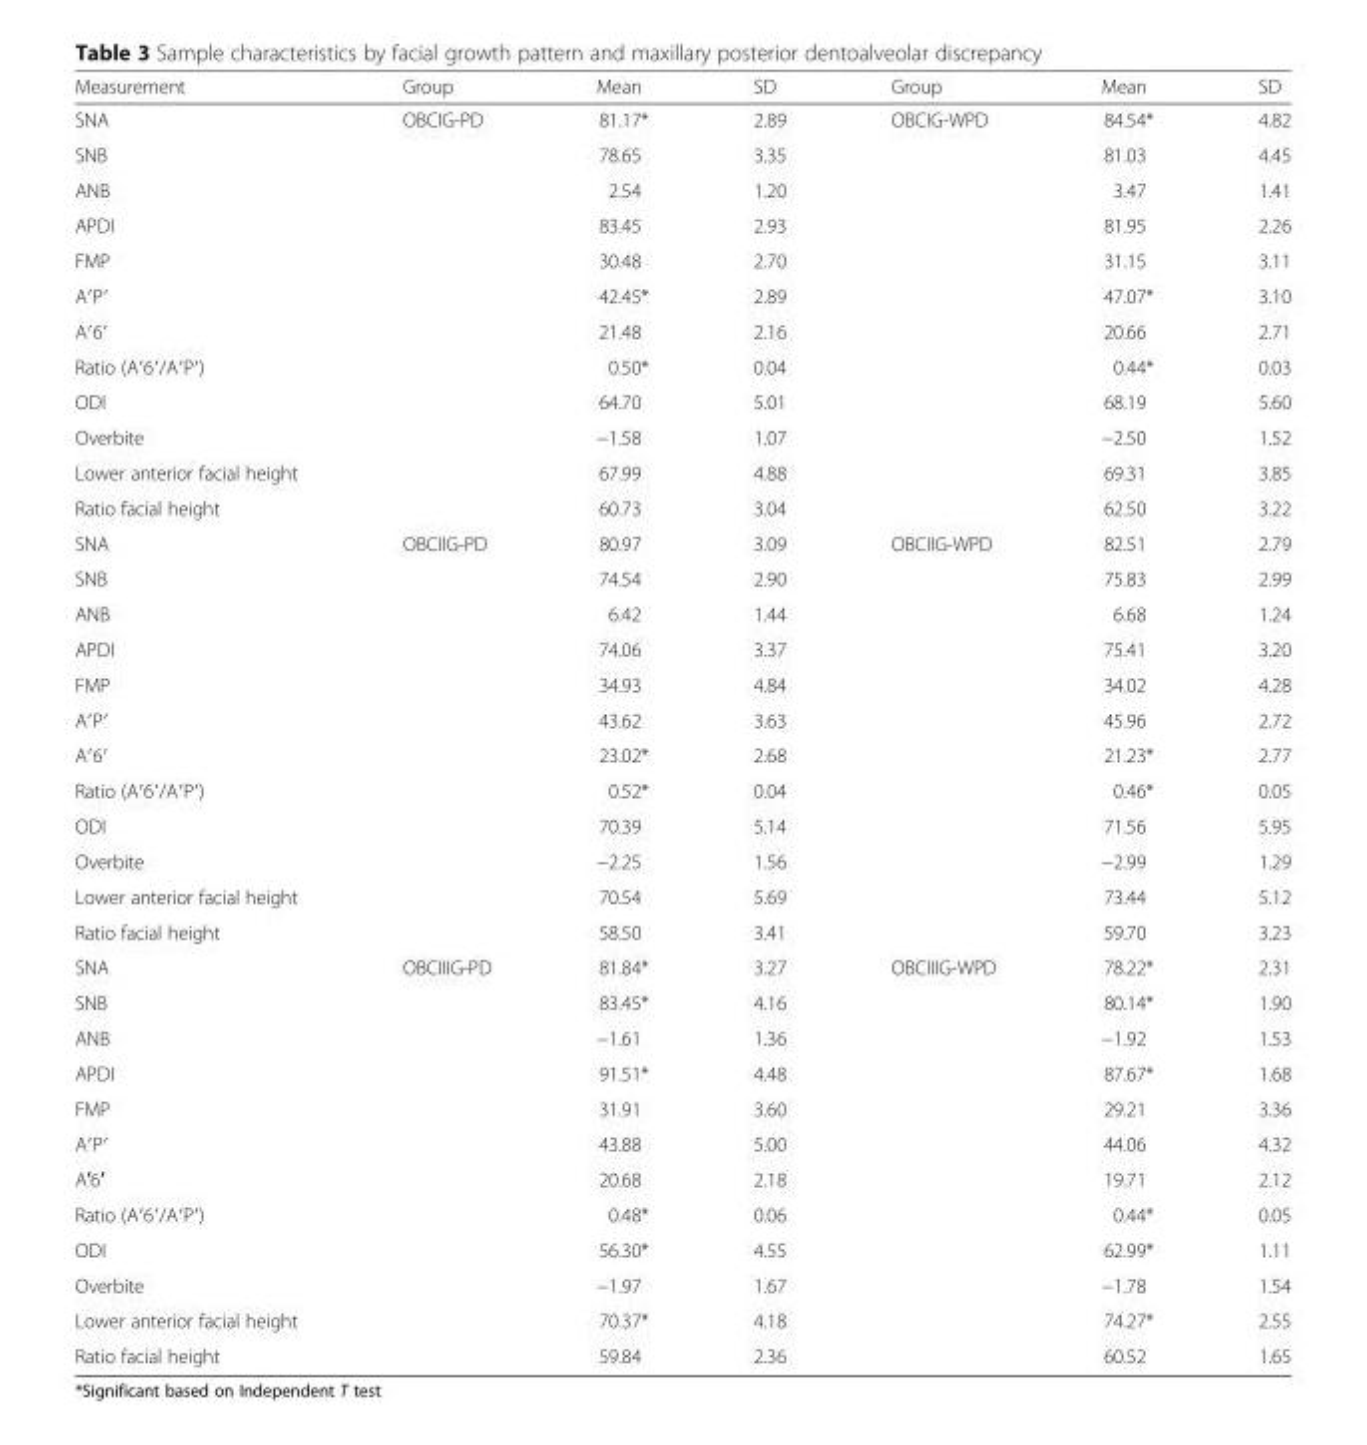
<table><thead><tr><td>Measurement</td><td>Group</td><td>Mean</td><td>SD</td><td>Group</td><td>Mean</td><td>SD</td></tr></thead><tbody><tr><td>SNA</td><td rowspan="12">OBCIG-PD</td><td>81.17*</td><td>2.89</td><td rowspan="12">OBCIG-WPD</td><td>84.54*</td><td>4.82</td></tr><tr><td>SNB</td><td>78.65</td><td>3.35</td><td>81.03</td><td>4.45</td></tr><tr><td>ANB</td><td>2.54</td><td>1.20</td><td>3.47</td><td>1.41</td></tr><tr><td>APDI</td><td>83.45</td><td>2.93</td><td>81.95</td><td>2.26</td></tr><tr><td>FMP</td><td>30.48</td><td>2.70</td><td>31.15</td><td>3.11</td></tr><tr><td>A′P′</td><td>42.45*</td><td>2.89</td><td>47.07*</td><td>3.10</td></tr><tr><td>A′6′</td><td>21.48</td><td>2.16</td><td>20.66</td><td>2.71</td></tr><tr><td>Ratio (A′6′/A′P′)</td><td>0.50*</td><td>0.04</td><td>0.44*</td><td>0.03</td></tr><tr><td>ODI</td><td>64.70</td><td>5.01</td><td>68.19</td><td>5.60</td></tr><tr><td>Overbite</td><td>−1.58</td><td>1.07</td><td>−2.50</td><td>1.52</td></tr><tr><td>Lower anterior facial height</td><td>67.99</td><td>4.88</td><td>69.31</td><td>3.85</td></tr><tr><td>Ratio facial height</td><td>60.73</td><td>3.04</td><td>62.50</td><td>3.22</td></tr><tr><td>SNA</td><td rowspan="12">OBCIIG-PD</td><td>80.97</td><td>3.09</td><td rowspan="12">OBCIIG-WPD</td><td>82.51</td><td>2.79</td></tr><tr><td>SNB</td><td>74.54</td><td>2.90</td><td>75.83</td><td>2.99</td></tr><tr><td>ANB</td><td>6.42</td><td>1.44</td><td>6.68</td><td>1.24</td></tr><tr><td>APDI</td><td>74.06</td><td>3.37</td><td>75.41</td><td>3.20</td></tr><tr><td>FMP</td><td>34.93</td><td>4.84</td><td>34.02</td><td>4.28</td></tr><tr><td>A′P′</td><td>43.62</td><td>3.63</td><td>45.96</td><td>2.72</td></tr><tr><td>A′6′</td><td>23.02*</td><td>2.68</td><td>21.23*</td><td>2.77</td></tr><tr><td>Ratio (A′6′/A′P′)</td><td>0.52*</td><td>0.04</td><td>0.46*</td><td>0.05</td></tr><tr><td>ODI</td><td>70.39</td><td>5.14</td><td>71.56</td><td>5.95</td></tr><tr><td>Overbite</td><td>−2.25</td><td>1.56</td><td>−2.99</td><td>1.29</td></tr><tr><td>Lower anterior facial height</td><td>70.54</td><td>5.69</td><td>73.44</td><td>5.12</td></tr><tr><td>Ratio facial height</td><td>58.50</td><td>3.41</td><td>59.70</td><td>3.23</td></tr><tr><td>SNA</td><td rowspan="12">OBCIIIG-PD</td><td>81.84*</td><td>3.27</td><td rowspan="12">OBCIIIG-WPD</td><td>78.22*</td><td>2.31</td></tr><tr><td>SNB</td><td>83.45*</td><td>4.16</td><td>80.14*</td><td>1.90</td></tr><tr><td>ANB</td><td>−1.61</td><td>1.36</td><td>−1.92</td><td>1.53</td></tr><tr><td>APDI</td><td>91.51*</td><td>4.48</td><td>87.67*</td><td>1.68</td></tr><tr><td>FMP</td><td>31.91</td><td>3.60</td><td>29.21</td><td>3.36</td></tr><tr><td>A′P′</td><td>43.88</td><td>5.00</td><td>44.06</td><td>4.32</td></tr><tr><td>A′6′</td><td>20.68</td><td>2.18</td><td>19.71</td><td>2.12</td></tr><tr><td>Ratio (A′6′/A′P′)</td><td>0.48*</td><td>0.06</td><td>0.44*</td><td>0.05</td></tr><tr><td>ODI</td><td>56.30*</td><td>4.55</td><td>62.99*</td><td>1.11</td></tr><tr><td>Overbite</td><td>−1.97</td><td>1.67</td><td>−1.78</td><td>1.54</td></tr><tr><td>Lower anterior facial height</td><td>70.37*</td><td>4.18</td><td>74.27*</td><td>2.55</td></tr><tr><td>Ratio facial height</td><td>59.84</td><td>2.36</td><td>60.52</td><td>1.65</td></tr></tbody></table>